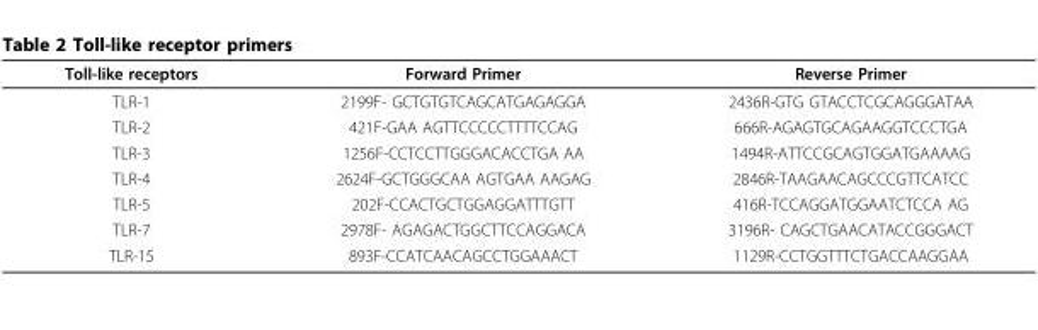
<table><thead><tr><td>Toll-like receptors</td><td>Forward Primer</td><td>Reverse Primer</td></tr></thead><tbody><tr><td>TLR-1</td><td>2199F- GCTGTGTCAGCATGAGAGGA</td><td>2436R-GTG GTACCTCGCAGGGATAA</td></tr><tr><td>TLR-2</td><td>421F-GAA AGTTCCCCCTTTTCCAG</td><td>666R-AGAGTGCAGAAGGTCCCTGA</td></tr><tr><td>TLR-3</td><td>1256F-CCTCCTTGGGACACCTGA AA</td><td>1494R-ATTCCGCAGTGGATGAAAAG</td></tr><tr><td>TLR-4</td><td>2624F-GCTGGGCAA AGTGAA AAGAG</td><td>2846R-TAAGAACAGCCCGTTCATCC</td></tr><tr><td>TLR-5</td><td>202F-CCACTGCTGGAGGATTTGTT</td><td>416R-TCCAGGATGGAATCTCCA AG</td></tr><tr><td>TLR-7</td><td>2978F- AGAGACTGGCTTCCAGGACA</td><td>3196R- CAGCTGAACATACCGGGACT</td></tr><tr><td>TLR-15</td><td>893F-CCATCAACAGCCTGGAAACT</td><td>1129R-CCTGGTTTCTGACCAAGGAA</td></tr></tbody></table>